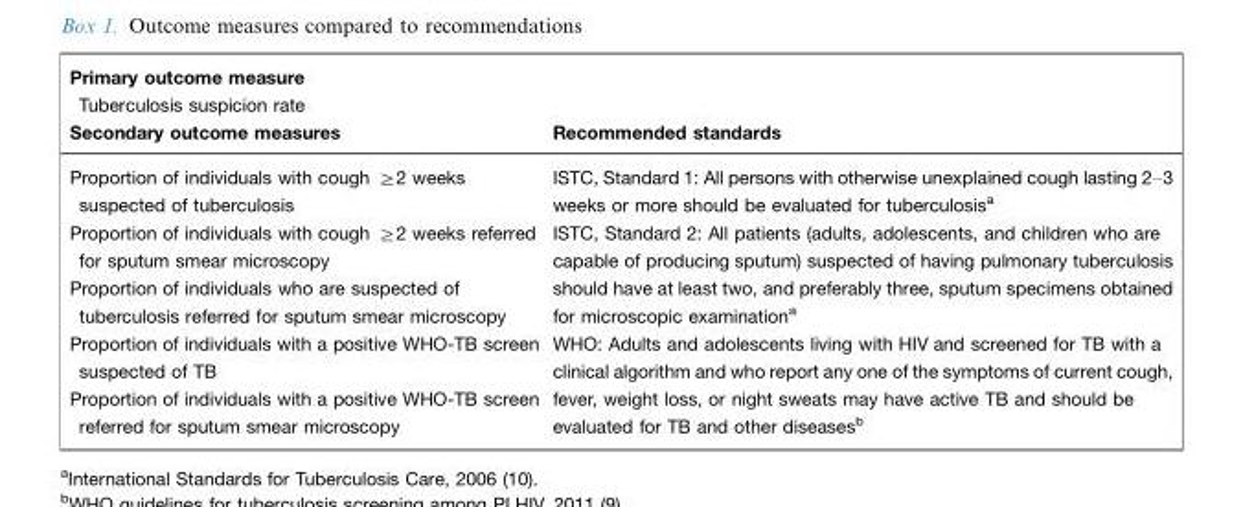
<table><tbody><tr><td colspan="2">Primary outcome measure</td></tr><tr><td colspan="2">Tuberculosis suspicion rate</td></tr><tr><td>Secondary outcome measures</td><td>Recommended standards</td></tr><tr><td>Proportion of individuals with cough ≥2 weeks suspected of tuberculosis</td><td>ISTC, Standard 1: All persons with otherwise unexplained cough lasting 2–3 weeks or more should be evaluated for tuberculosis<sup>a</sup></td></tr><tr><td>Proportion of individuals with cough ≥2 weeks referred for sputum smear microscopy Proportion of individuals who are suspected of tuberculosis referred for sputum smear microscopy</td><td>ISTC, Standard 2: All patients (adults, adolescents, and children who are capable of producing sputum) suspected of having pulmonary tuberculosis should have at least two, and preferably three, sputum specimens obtained for microscopic examination<sup>a</sup></td></tr><tr><td>Proportion of individuals with a positive WHO-TB screen suspected of TB Proportion of individuals with a positive WHO-TB screen referred for sputum smear microscopy</td><td>WHO: Adults and adolescents living with HIV and screened for TB with a clinical algorithm and who report any one of the symptoms of current cough, fever, weight loss, or night sweats may have active TB and should be evaluated for TB and other diseasesb</td></tr></tbody></table>